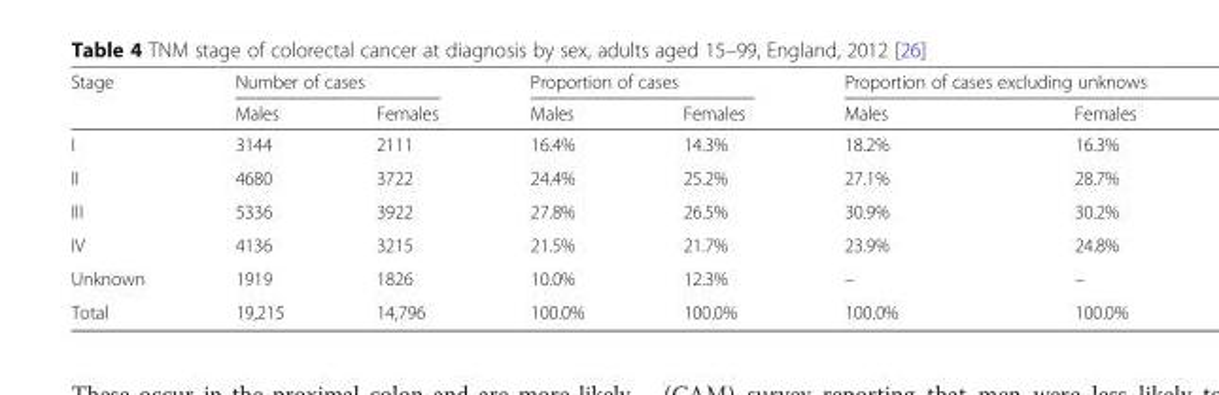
<table><thead><tr><td rowspan="2">Stage</td><td colspan="2">Number of cases</td><td colspan="2">Proportion of cases</td><td colspan="2">Proportion of cases excluding unknows</td></tr><tr><td>Males</td><td>Females</td><td>Males</td><td>Females</td><td>Males</td><td>Females</td></tr></thead><tbody><tr><td>I</td><td>3144</td><td>2111</td><td>16.4%</td><td>14.3%</td><td>18.2%</td><td>16.3%</td></tr><tr><td>II</td><td>4680</td><td>3722</td><td>24.4%</td><td>25.2%</td><td>27.1%</td><td>28.7%</td></tr><tr><td>III</td><td>5336</td><td>3922</td><td>27.8%</td><td>26.5%</td><td>30.9%</td><td>30.2%</td></tr><tr><td>IV</td><td>4136</td><td>3215</td><td>21.5%</td><td>21.7%</td><td>23.9%</td><td>24.8%</td></tr><tr><td>Unknown</td><td>1919</td><td>1826</td><td>10.0%</td><td>12.3%</td><td>–</td><td>–</td></tr><tr><td>Total</td><td>19,215</td><td>14,796</td><td>100.0%</td><td>100.0%</td><td>100.0%</td><td>100.0%</td></tr></tbody></table>